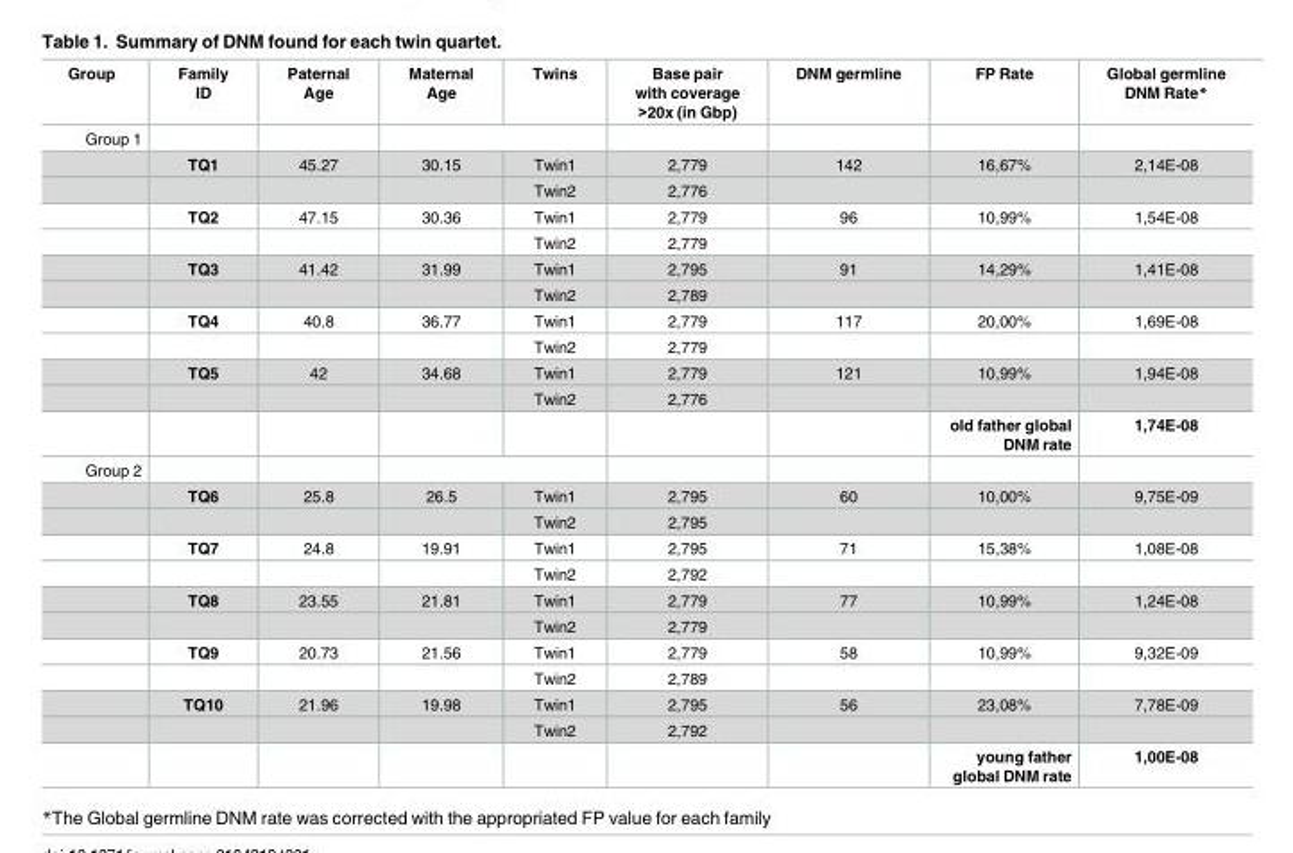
<table><thead><tr><td>Group</td><td>Family ID</td><td>Paternal Age</td><td>Maternal Age</td><td>Twins</td><td>Base pair with coverage &gt;20x (in Gbp)</td><td>DNM germline</td><td>FP Rate</td><td>Global germline DNM Rate*</td></tr></thead><tbody><tr><td colspan="9">Group 1</td></tr><tr><td></td><td>TQ1</td><td>45.27</td><td>30.15</td><td>Twin1</td><td>2,779</td><td>142</td><td>16,67%</td><td>2,14E-08</td></tr><tr><td></td><td></td><td></td><td></td><td>Twin2</td><td>2,776</td><td></td><td></td><td></td></tr><tr><td></td><td>TQ2</td><td>47.15</td><td>30.36</td><td>Twin1</td><td>2,779</td><td>96</td><td>10,99%</td><td>1,54E-08</td></tr><tr><td></td><td></td><td></td><td></td><td>Twin2</td><td>2,779</td><td></td><td></td><td></td></tr><tr><td></td><td>TQ3</td><td>41.42</td><td>31.99</td><td>Twin1</td><td>2,795</td><td>91</td><td>14,29%</td><td>1,41E-08</td></tr><tr><td></td><td></td><td></td><td></td><td>Twin2</td><td>2,789</td><td></td><td></td><td></td></tr><tr><td></td><td>TQ4</td><td>40.8</td><td>36.77</td><td>Twin1</td><td>2,779</td><td>117</td><td>20,00%</td><td>1,69E-08</td></tr><tr><td></td><td></td><td></td><td></td><td>Twin2</td><td>2,779</td><td></td><td></td><td></td></tr><tr><td></td><td>TQ5</td><td>42</td><td>34.68</td><td>Twin1</td><td>2,779</td><td>121</td><td>10,99%</td><td>1,94E-08</td></tr><tr><td></td><td></td><td></td><td></td><td>Twin2</td><td>2,776</td><td></td><td></td><td></td></tr><tr><td></td><td></td><td></td><td></td><td></td><td></td><td></td><td>old father global DNM rate</td><td>1,74E-08</td></tr><tr><td colspan="9">Group 2</td></tr><tr><td></td><td>TQ6</td><td>25.8</td><td>26.5</td><td>Twin1</td><td>2,795</td><td>60</td><td>10,00%</td><td>9,75E-09</td></tr><tr><td></td><td></td><td></td><td></td><td>Twin2</td><td>2,795</td><td></td><td></td><td></td></tr><tr><td></td><td>TQ7</td><td>24.8</td><td>19.91</td><td>Twin1</td><td>2,795</td><td>71</td><td>15,38%</td><td>1,08E-08</td></tr><tr><td></td><td></td><td></td><td></td><td>Twin2</td><td>2,792</td><td></td><td></td><td></td></tr><tr><td></td><td>TQ8</td><td>23.55</td><td>21.81</td><td>Twin1</td><td>2,779</td><td>77</td><td>10,99%</td><td>1,24E-08</td></tr><tr><td></td><td></td><td></td><td></td><td>Twin2</td><td>2,779</td><td></td><td></td><td></td></tr><tr><td></td><td>TQ9</td><td>20.73</td><td>21.56</td><td>Twin1</td><td>2,779</td><td>58</td><td>10,99%</td><td>9,32E-09</td></tr><tr><td></td><td></td><td></td><td></td><td>Twin2</td><td>2,789</td><td></td><td></td><td></td></tr><tr><td></td><td>TQ10</td><td>21.96</td><td>19.98</td><td>Twin1</td><td>2,795</td><td>56</td><td>23,08%</td><td>7,78E-09</td></tr><tr><td></td><td></td><td></td><td></td><td>Twin2</td><td>2,792</td><td></td><td></td><td></td></tr><tr><td></td><td></td><td></td><td></td><td></td><td></td><td></td><td>young father global DNM rate</td><td>1,00E-08</td></tr></tbody></table>